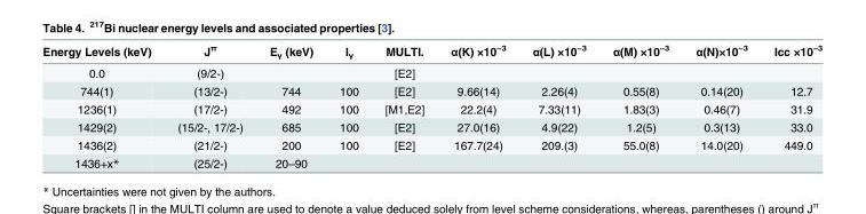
<table><thead><tr><td>Energy Levels (keV)</td><td>J<sup>π</sup></td><td>E<sub>γ</sub> (keV)</td><td>I<sub>γ</sub></td><td>MULTI.</td><td>α(K) ×10<sup>−3</sup></td><td>α(L) ×10<sup>−3</sup></td><td>α(M) ×10<sup>−3</sup></td><td>α(N)×10<sup>−3</sup></td><td>Icc ×10<sup>−3</sup></td></tr></thead><tbody><tr><td>0.0</td><td>(9/2-)</td><td></td><td></td><td>[E2]</td><td></td><td></td><td></td><td></td><td></td></tr><tr><td>744(1)</td><td>(13/2-)</td><td>744</td><td>100</td><td>[E2]</td><td>9.66(14)</td><td>2.26(4)</td><td>0.55(8)</td><td>0.14(20)</td><td>12.7</td></tr><tr><td>1236(1)</td><td>(17/2-)</td><td>492</td><td>100</td><td>[M1,E2]</td><td>22.2(4)</td><td>7.33(11)</td><td>1.83(3)</td><td>0.46(7)</td><td>31.9</td></tr><tr><td>1429(2)</td><td>(15/2-, 17/2-)</td><td>685</td><td>100</td><td>[E2]</td><td>27.0(16)</td><td>4.9(22)</td><td>1.2(5)</td><td>0.3(13)</td><td>33.0</td></tr><tr><td>1436(2)</td><td>(21/2-)</td><td>200</td><td>100</td><td>[E2]</td><td>167.7(24)</td><td>209.(3)</td><td>55.0(8)</td><td>14.0(20)</td><td>449.0</td></tr><tr><td>1436+x*</td><td>(25/2-)</td><td>20–90</td><td></td><td></td><td></td><td></td><td></td><td></td><td></td></tr></tbody></table>